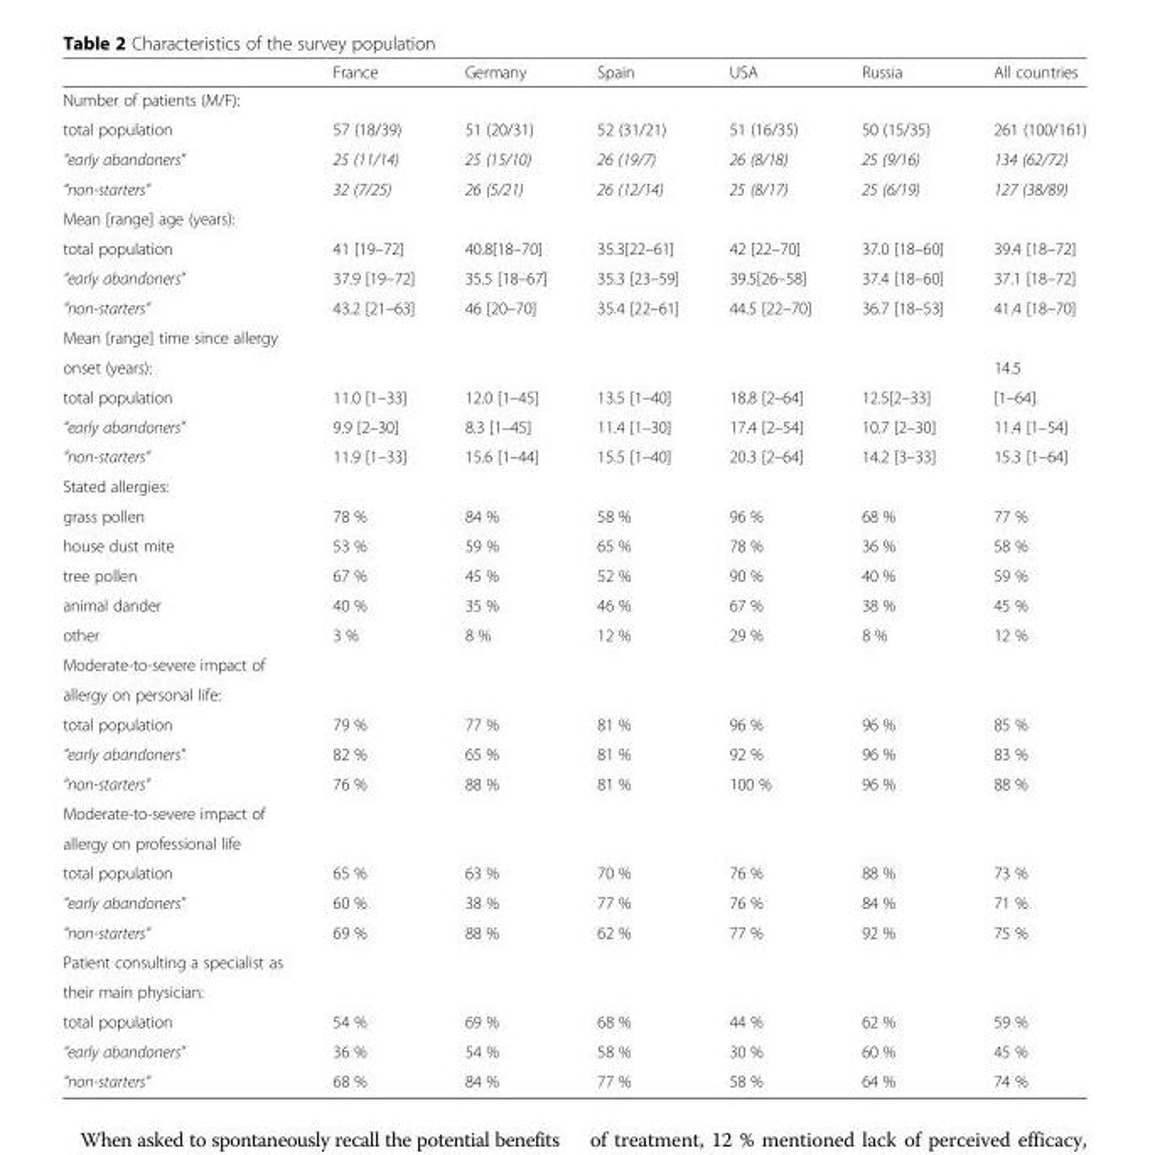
<table><thead><tr><td></td><td>France</td><td>Germany</td><td>Spain</td><td>USA</td><td>Russia</td><td>All countries</td></tr></thead><tbody><tr><td colspan="7">Number of patients (M/F):</td></tr><tr><td>total population</td><td>57 (18/39)</td><td>51 (20/31)</td><td>52 (31/21)</td><td>51 (16/35)</td><td>50 (15/35)</td><td>261 (100/161)</td></tr><tr><td>“early abandoners”</td><td>25 (11/14)</td><td>25 (15/10)</td><td>26 (19/7)</td><td>26 (8/18)</td><td>25 (9/16)</td><td>134 (62/72)</td></tr><tr><td>“non-starters”</td><td>32 (7/25)</td><td>26 (5/21)</td><td>26 (12/14)</td><td>25 (8/17)</td><td>25 (6/19)</td><td>127 (38/89)</td></tr><tr><td colspan="7">Mean [range] age (years):</td></tr><tr><td>total population</td><td>41 [19–72]</td><td>40.8[18–70]</td><td>35.3[22–61]</td><td>42 [22–70]</td><td>37.0 [18–60]</td><td>39.4 [18–72]</td></tr><tr><td>“early abandoners”</td><td>37.9 [19–72]</td><td>35.5 [18–67]</td><td>35.3 [23–59]</td><td>39.5[26–58]</td><td>37.4 [18–60]</td><td>37.1 [18–72]</td></tr><tr><td>“non-starters”</td><td>43.2 [21–63]</td><td>46 [20–70]</td><td>35.4 [22–61]</td><td>44.5 [22–70]</td><td>36.7 [18–53]</td><td>41.4 [18–70]</td></tr><tr><td colspan="7">Mean [range] time since allergy</td></tr><tr><td>onset (years):</td><td></td><td></td><td></td><td></td><td></td><td>14.5</td></tr><tr><td>total population</td><td>11.0 [1–33]</td><td>12.0 [1–45]</td><td>13.5 [1–40]</td><td>18.8 [2–64]</td><td>12.5[2–33]</td><td>[1–64].</td></tr><tr><td>“early abandoners”</td><td>9.9 [2–30]</td><td>8.3 [1–45]</td><td>11.4 [1–30]</td><td>17.4 [2–54]</td><td>10.7 [2–30]</td><td>11.4 [1–54]</td></tr><tr><td>“non-starters”</td><td>11.9 [1–33]</td><td>15.6 [1–44]</td><td>15.5 [1–40]</td><td>20.3 [2–64]</td><td>14.2 [3–33]</td><td>15.3 [1–64]</td></tr><tr><td colspan="7">Stated allergies:</td></tr><tr><td>grass pollen</td><td>78 %</td><td>84 %</td><td>58 %</td><td>96 %</td><td>68 %</td><td>77 %</td></tr><tr><td>house dust mite</td><td>53 %</td><td>59 %</td><td>65 %</td><td>78 %</td><td>36 %</td><td>58 %</td></tr><tr><td>tree pollen</td><td>67 %</td><td>45 %</td><td>52 %</td><td>90 %</td><td>40 %</td><td>59 %</td></tr><tr><td>animal dander</td><td>40 %</td><td>35 %</td><td>46 %</td><td>67 %</td><td>38 %</td><td>45 %</td></tr><tr><td>other</td><td>3 %</td><td>8 %</td><td>12 %</td><td>29 %</td><td>8 %</td><td>12 %</td></tr><tr><td colspan="7">Moderate-to-severe impact of</td></tr><tr><td colspan="7">allergy on personal life:</td></tr><tr><td>total population</td><td>79 %</td><td>77 %</td><td>81 %</td><td>96 %</td><td>96 %</td><td>85 %</td></tr><tr><td>“early abandoners”</td><td>82 %</td><td>65 %</td><td>81 %</td><td>92 %</td><td>96 %</td><td>83 %</td></tr><tr><td>“non-starters”</td><td>76 %</td><td>88 %</td><td>81 %</td><td>100 %</td><td>96 %</td><td>88 %</td></tr><tr><td colspan="7">Moderate-to-severe impact of</td></tr><tr><td colspan="7">allergy on professional life</td></tr><tr><td>total population</td><td>65 %</td><td>63 %</td><td>70 %</td><td>76 %</td><td>88 %</td><td>73 %</td></tr><tr><td>“early abandoners”</td><td>60 %</td><td>38 %</td><td>77 %</td><td>76 %</td><td>84 %</td><td>71 %</td></tr><tr><td>“non-starters”</td><td>69 %</td><td>88 %</td><td>62 %</td><td>77 %</td><td>92 %</td><td>75 %</td></tr><tr><td colspan="7">Patient consulting a specialist as</td></tr><tr><td colspan="7">their main physician:</td></tr><tr><td>total population</td><td>54 %</td><td>69 %</td><td>68 %</td><td>44 %</td><td>62 %</td><td>59 %</td></tr><tr><td>“early abandoners”</td><td>36 %</td><td>54 %</td><td>58 %</td><td>30 %</td><td>60 %</td><td>45 %</td></tr><tr><td>“non-starters”</td><td>68 %</td><td>84 %</td><td>77 %</td><td>58 %</td><td>64 %</td><td>74 %</td></tr></tbody></table>